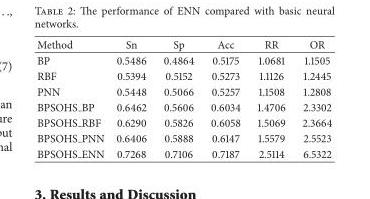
<table><thead><tr><td>Method</td><td>Sn</td><td>Sp</td><td>Acc</td><td>RR</td><td>OR</td></tr></thead><tbody><tr><td>BP</td><td>0.5486</td><td>0.4864</td><td>0.5175</td><td>1.0681</td><td>1.1505</td></tr><tr><td>RBF</td><td>0.5394</td><td>0.5152</td><td>0.5273</td><td>1.1126</td><td>1.2445</td></tr><tr><td>PNN</td><td>0.5448</td><td>0.5066</td><td>0.5257</td><td>1.1508</td><td>1.2808</td></tr><tr><td>BPSOHS BP</td><td>0.6462</td><td>0.5606</td><td>0.6034</td><td>1.4706</td><td>2.3302</td></tr><tr><td>BPSOHS RBF</td><td>0.6290</td><td>0.5826</td><td>0.6058</td><td>1.5069</td><td>2.3664</td></tr><tr><td>BPSOHS PNN</td><td>0.6406</td><td>0.5888</td><td>0.6147</td><td>1.5579</td><td>2.5523</td></tr><tr><td>BPSOHS ENN</td><td>0.7268</td><td>0.7106</td><td>0.7187</td><td>2.5114</td><td>6.5322</td></tr></tbody></table>